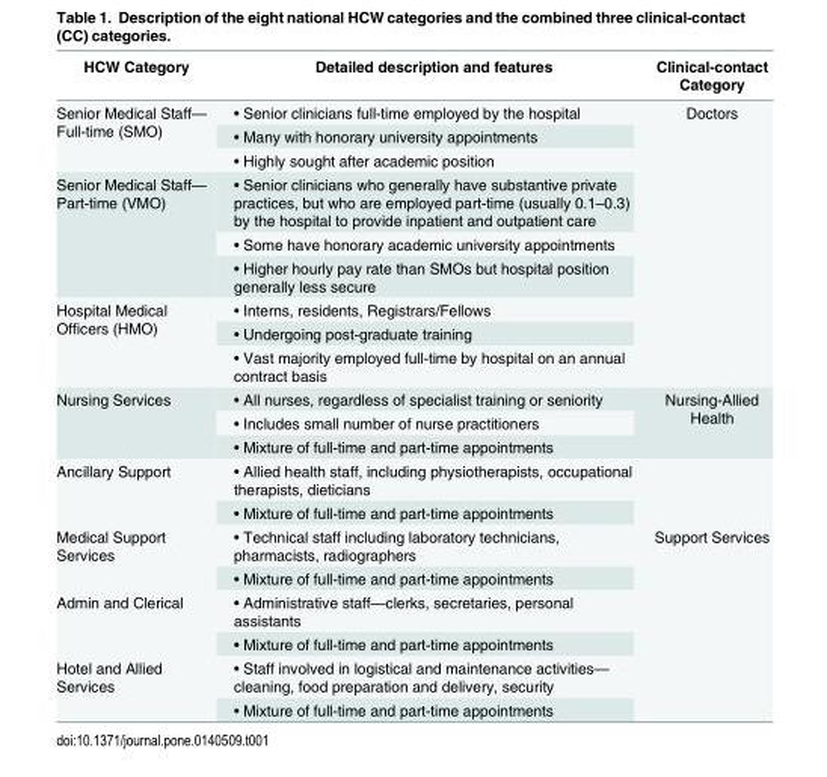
<table><thead><tr><td>HCW Category</td><td>Detailed description and features</td><td>Clinical-contact Category</td></tr></thead><tbody><tr><td rowspan="3">Senior Medical Staff— Full-time (SMO)</td><td>• Senior clinicians full-time employed by the hospital</td><td rowspan="9">Doctors</td></tr><tr><td>• Many with honorary university appointments</td></tr><tr><td>• Highly sought after academic position</td></tr><tr><td rowspan="3">Senior Medical Staff— Part-time (VMO)</td><td>• Senior clinicians who generally have substantive private practices, but who are employed part-time (usually 0.1–0.3) by the hospital to provide inpatient and outpatient care</td></tr><tr><td>• Some have honorary academic university appointments</td></tr><tr><td>• Higher hourly pay rate than SMOs but hospital position generally less secure</td></tr><tr><td rowspan="3">Hospital Medical Officers (HMO)</td><td>• Interns, residents, Registrars/Fellows</td></tr><tr><td>• Undergoing post-graduate training</td></tr><tr><td>• Vast majority employed full-time by hospital on an annual contract basis</td></tr><tr><td rowspan="3">Nursing Services</td><td>• All nurses, regardless of specialist training or seniority</td><td rowspan="3">Nursing-Allied Health</td></tr><tr><td>• Includes small number of nurse practitioners</td></tr><tr><td>• Mixture of full-time and part-time appointments</td></tr><tr><td rowspan="2">Ancillary Support</td><td>• Allied health staff, including physiotherapists, occupational therapists, dieticians</td><td rowspan="2"></td></tr><tr><td>• Mixture of full-time and part-time appointments</td></tr><tr><td rowspan="2">Medical Support Services</td><td>• Technical staff including laboratory technicians, pharmacists, radiographers</td><td rowspan="6">Support Services</td></tr><tr><td>• Mixture of full-time and part-time appointments</td></tr><tr><td rowspan="2">Admin and Clerical</td><td>• Administrative staff—clerks, secretaries, personal assistants</td></tr><tr><td>• Mixture of full-time and part-time appointments</td></tr><tr><td rowspan="2">Hotel and Allied Services</td><td>• Staff involved in logistical and maintenance activities— cleaning, food preparation and delivery, security</td></tr><tr><td>• Mixture of full-time and part-time appointments</td></tr></tbody></table>